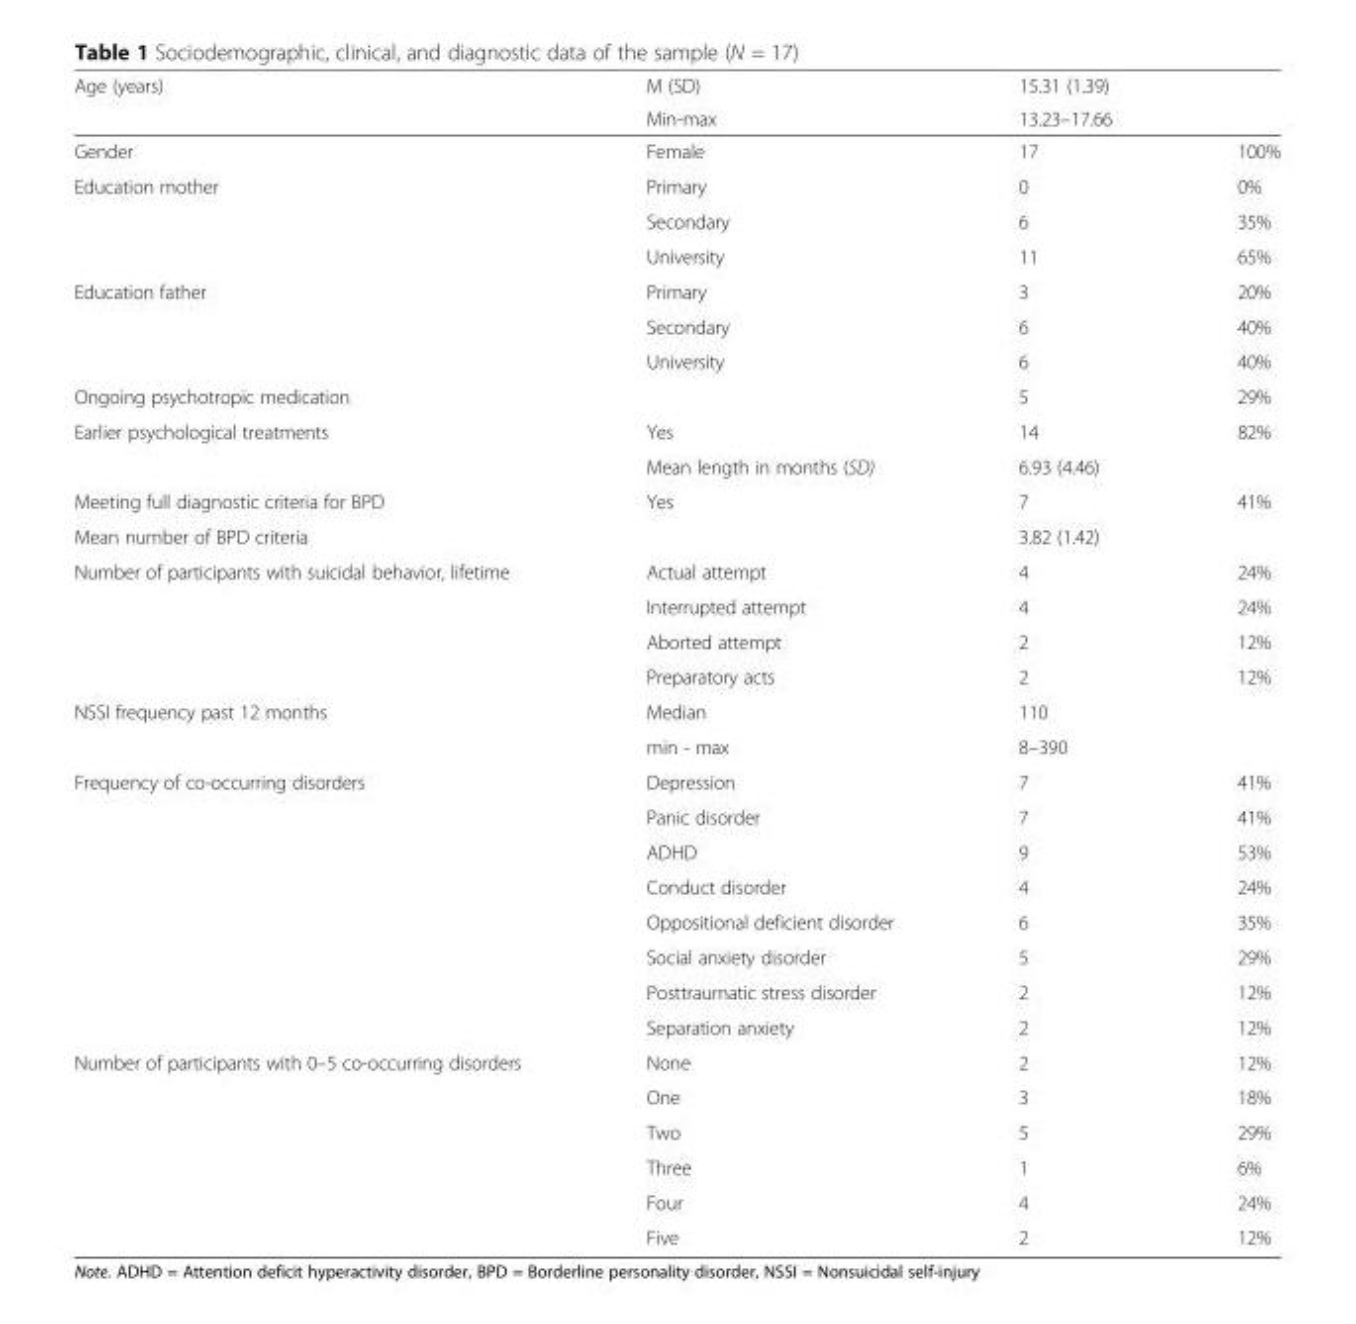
<table><thead><tr><td rowspan="2">Age (years)</td><td rowspan="2">M (SD) Min-max</td><td rowspan="2">15.31 (1.39) 13.23–17.66</td><td rowspan="2"></td></tr><tr></tr></thead><tbody><tr><td>Gender</td><td>Female</td><td>17</td><td>100%</td></tr><tr><td rowspan="3">Education mother</td><td>Primary</td><td>0</td><td>0%</td></tr><tr><td>Secondary</td><td>6</td><td>35%</td></tr><tr><td>University</td><td>11</td><td>65%</td></tr><tr><td rowspan="3">Education father</td><td>Primary</td><td>3</td><td>20%</td></tr><tr><td>Secondary</td><td>6</td><td>40%</td></tr><tr><td>University</td><td>6</td><td>40%</td></tr><tr><td>Ongoing psychotropic medication</td><td></td><td>5</td><td>29%</td></tr><tr><td rowspan="2">Earlier psychological treatments</td><td>Yes</td><td>14</td><td>82%</td></tr><tr><td>Mean length in months (SD)</td><td>6.93 (4.46)</td><td></td></tr><tr><td>Meeting full diagnostic criteria for BPD</td><td>Yes</td><td>7</td><td>41%</td></tr><tr><td>Mean number of BPD criteria</td><td></td><td>3.82 (1.42)</td><td></td></tr><tr><td rowspan="4">Number of participants with suicidal behavior, lifetime</td><td>Actual attempt</td><td>4</td><td>24%</td></tr><tr><td>Interrupted attempt</td><td>4</td><td>24%</td></tr><tr><td>Aborted attempt</td><td>2</td><td>12%</td></tr><tr><td>Preparatory acts</td><td>2</td><td>12%</td></tr><tr><td rowspan="2">NSSI frequency past 12 months</td><td>Median</td><td>110</td><td rowspan="2"></td></tr><tr><td>min - max</td><td>8–390</td></tr><tr><td rowspan="8">Frequency of co-occurring disorders</td><td>Depression</td><td>7</td><td>41%</td></tr><tr><td>Panic disorder</td><td>7</td><td>41%</td></tr><tr><td>ADHD</td><td>9</td><td>53%</td></tr><tr><td>Conduct disorder</td><td>4</td><td>24%</td></tr><tr><td>Oppositional deficient disorder</td><td>6</td><td>35%</td></tr><tr><td>Social anxiety disorder</td><td>5</td><td>29%</td></tr><tr><td>Posttraumatic stress disorder</td><td>2</td><td>12%</td></tr><tr><td>Separation anxiety</td><td>2</td><td>12%</td></tr><tr><td rowspan="6">Number of participants with 0–5 co-occurring disorders</td><td>None</td><td>2</td><td>12%</td></tr><tr><td>One</td><td>3</td><td>18%</td></tr><tr><td>Two</td><td>5</td><td>29%</td></tr><tr><td>Three</td><td>1</td><td>6%</td></tr><tr><td>Four</td><td>4</td><td>24%</td></tr><tr><td>Five</td><td>2</td><td>12%</td></tr></tbody></table>